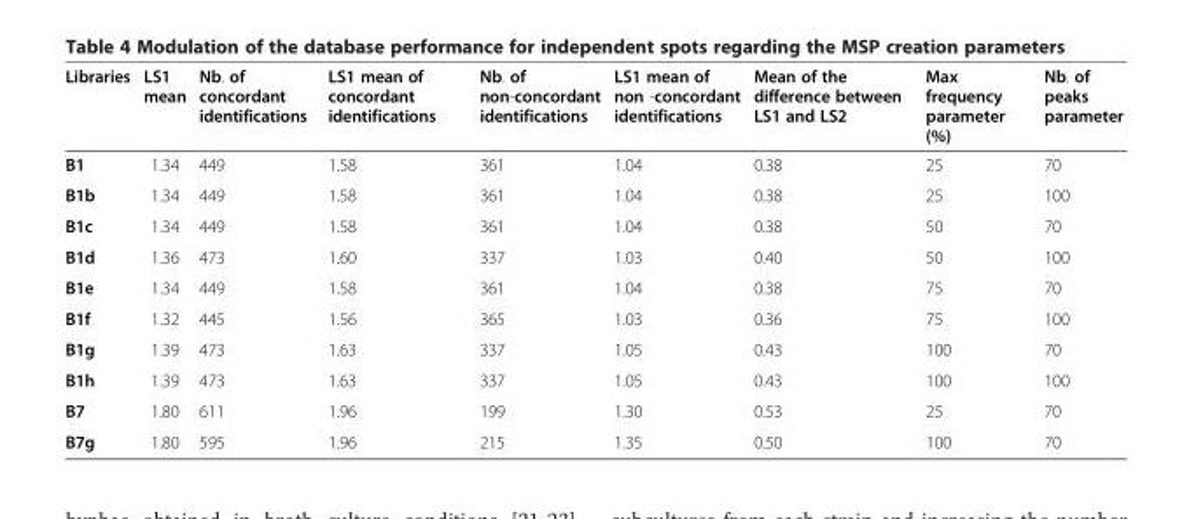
<table><thead><tr><td>Libraries</td><td>LS1 mean</td><td>Nb. of concordant identifications</td><td>LS1 mean of concordant identifications</td><td>Nb. of non-concordant identifications</td><td>LS1 mean of non -concordant identifications</td><td>Mean of the difference between LS1 and LS2</td><td>Max frequency parameter (%)</td><td>Nb. of peaks parameter</td></tr></thead><tbody><tr><td>B1</td><td>1.34</td><td>449</td><td>1.58</td><td>361</td><td>1.04</td><td>0.38</td><td>25</td><td>70</td></tr><tr><td>B1b</td><td>1.34</td><td>449</td><td>1.58</td><td>361</td><td>1.04</td><td>0.38</td><td>25</td><td>100</td></tr><tr><td>B1c</td><td>1.34</td><td>449</td><td>1.58</td><td>361</td><td>1.04</td><td>0.38</td><td>50</td><td>70</td></tr><tr><td>B1d</td><td>1.36</td><td>473</td><td>1.60</td><td>337</td><td>1.03</td><td>0.40</td><td>50</td><td>100</td></tr><tr><td>B1e</td><td>1.34</td><td>449</td><td>1.58</td><td>361</td><td>1.04</td><td>0.38</td><td>75</td><td>70</td></tr><tr><td>B1f</td><td>1.32</td><td>445</td><td>1.56</td><td>365</td><td>1.03</td><td>0.36</td><td>75</td><td>100</td></tr><tr><td>B1g</td><td>1.39</td><td>473</td><td>1.63</td><td>337</td><td>1.05</td><td>0.43</td><td>100</td><td>70</td></tr><tr><td>B1h</td><td>1.39</td><td>473</td><td>1.63</td><td>337</td><td>1.05</td><td>0.43</td><td>100</td><td>100</td></tr><tr><td>B7</td><td>1.80</td><td>611</td><td>1.96</td><td>199</td><td>1.30</td><td>0.53</td><td>25</td><td>70</td></tr><tr><td>B7g</td><td>1.80</td><td>595</td><td>1.96</td><td>215</td><td>1.35</td><td>0.50</td><td>100</td><td>70</td></tr></tbody></table>